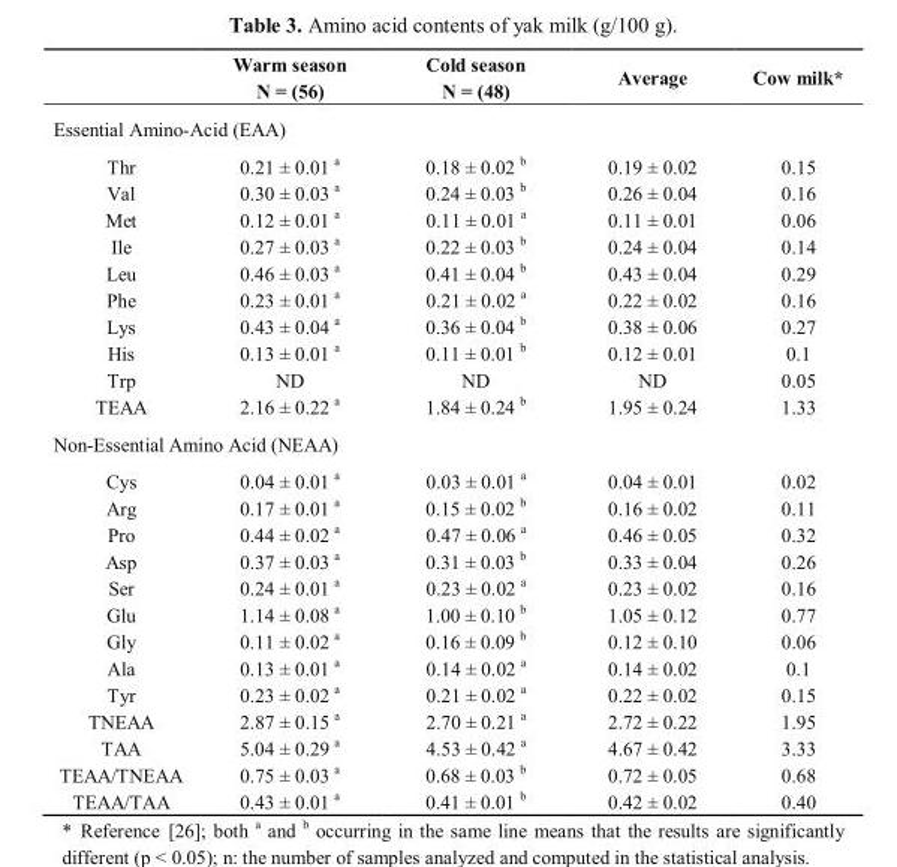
<table><thead><tr><td></td><td>Warm season N = (56)</td><td>Cold season N = (48)</td><td>Average</td><td>Cow milk*</td></tr></thead><tbody><tr><td colspan="5">Essential Amino-Acid (EAA)</td></tr><tr><td>Thr</td><td>0.21 ± 0.01 <sup>a</sup></td><td>0.18 ± 0.02 <sup>b</sup></td><td>0.19 ± 0.02</td><td>0.15</td></tr><tr><td>Val</td><td>0.30 ± 0.03 <sup>a</sup></td><td>0.24 ± 0.03 <sup>b</sup></td><td>0.26 ± 0.04</td><td>0.16</td></tr><tr><td>Met</td><td>0.12 ± 0.01 <sup>a</sup></td><td>0.11 ± 0.01 <sup>a</sup></td><td>0.11 ± 0.01</td><td>0.06</td></tr><tr><td>Ile</td><td>0.27 ± 0.03 <sup>a</sup></td><td>0.22 ± 0.03 <sup>b</sup></td><td>0.24 ± 0.04</td><td>0.14</td></tr><tr><td>Leu</td><td>0.46 ± 0.03 <sup>a</sup></td><td>0.41 ± 0.04 <sup>b</sup></td><td>0.43 ± 0.04</td><td>0.29</td></tr><tr><td>Phe</td><td>0.23 ± 0.01 <sup>a</sup></td><td>0.21 ± 0.02 <sup>a</sup></td><td>0.22 ± 0.02</td><td>0.16</td></tr><tr><td>Lys</td><td>0.43 ± 0.04 <sup>a</sup></td><td>0.36 ± 0.04 <sup>b</sup></td><td>0.38 ± 0.06</td><td>0.27</td></tr><tr><td>His</td><td>0.13 ± 0.01 <sup>a</sup></td><td>0.11 ± 0.01 <sup>b</sup></td><td>0.12 ± 0.01</td><td>0.1</td></tr><tr><td>Trp</td><td>ND</td><td>ND</td><td>ND</td><td>0.05</td></tr><tr><td>TEAA</td><td>2.16 ± 0.22 <sup>a</sup></td><td>1.84 ± 0.24 <sup>b</sup></td><td>1.95 ± 0.24</td><td>1.33</td></tr><tr><td colspan="5">Non-Essential Amino Acid (NEAA)</td></tr><tr><td>Cys</td><td>0.04 ± 0.01 <sup>a</sup></td><td>0.03 ± 0.01 <sup>a</sup></td><td>0.04 ± 0.01</td><td>0.02</td></tr><tr><td>Arg</td><td>0.17 ± 0.01 <sup>a</sup></td><td>0.15 ± 0.02 <sup>b</sup></td><td>0.16 ± 0.02</td><td>0.11</td></tr><tr><td>Pro</td><td>0.44 ± 0.02 <sup>a</sup></td><td>0.47 ± 0.06 <sup>a</sup></td><td>0.46 ± 0.05</td><td>0.32</td></tr><tr><td>Asp</td><td>0.37 ± 0.03 <sup>a</sup></td><td>0.31 ± 0.03 <sup>b</sup></td><td>0.33 ± 0.04</td><td>0.26</td></tr><tr><td>Ser</td><td>0.24 ± 0.01 <sup>a</sup></td><td>0.23 ± 0.02 <sup>a</sup></td><td>0.23 ± 0.02</td><td>0.16</td></tr><tr><td>Glu</td><td>1.14 ± 0.08 <sup>a</sup></td><td>1.00 ± 0.10 <sup>b</sup></td><td>1.05 ± 0.12</td><td>0.77</td></tr><tr><td>Gly</td><td>0.11 ± 0.02 <sup>a</sup></td><td>0.16 ± 0.09 <sup>b</sup></td><td>0.12 ± 0.10</td><td>0.06</td></tr><tr><td>Ala</td><td>0.13 ± 0.01 <sup>a</sup></td><td>0.14 ± 0.02 <sup>a</sup></td><td>0.14 ± 0.02</td><td>0.1</td></tr><tr><td>Tyr</td><td>0.23 ± 0.02 <sup>a</sup></td><td>0.21 ± 0.02 <sup>a</sup></td><td>0.22 ± 0.02</td><td>0.15</td></tr><tr><td>TNEAA</td><td>2.87 ± 0.15 <sup>a</sup></td><td>2.70 ± 0.21 <sup>a</sup></td><td>2.72 ± 0.22</td><td>1.95</td></tr><tr><td>TAA</td><td>5.04 ± 0.29 <sup>a</sup></td><td>4.53 ± 0.42 <sup>a</sup></td><td>4.67 ± 0.42</td><td>3.33</td></tr><tr><td>TEAA/TNEAA</td><td>0.75 ± 0.03 <sup>a</sup></td><td>0.68 ± 0.03 <sup>b</sup></td><td>0.72 ± 0.05</td><td>0.68</td></tr><tr><td>TEAA/TAA</td><td>0.43 ± 0.01 <sup>a</sup></td><td>0.41 ± 0.01 <sup>b</sup></td><td>0.42 ± 0.02</td><td>0.40</td></tr></tbody></table>